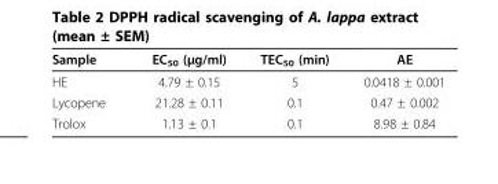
<table><thead><tr><td>Sample</td><td>EC<sub>50</sub> (μg/ml)</td><td>TEC<sub>50</sub> (min)</td><td>AE</td></tr></thead><tbody><tr><td>HE</td><td>4.79 ± 0.15</td><td>5</td><td>0.0418 ± 0.001</td></tr><tr><td>Lycopene</td><td>21.28 ± 0.11</td><td>0.1</td><td>0.47 ± 0.002</td></tr><tr><td>Trolox</td><td>1.13 ± 0.1</td><td>0.1</td><td>8.98 ± 0.84</td></tr></tbody></table>